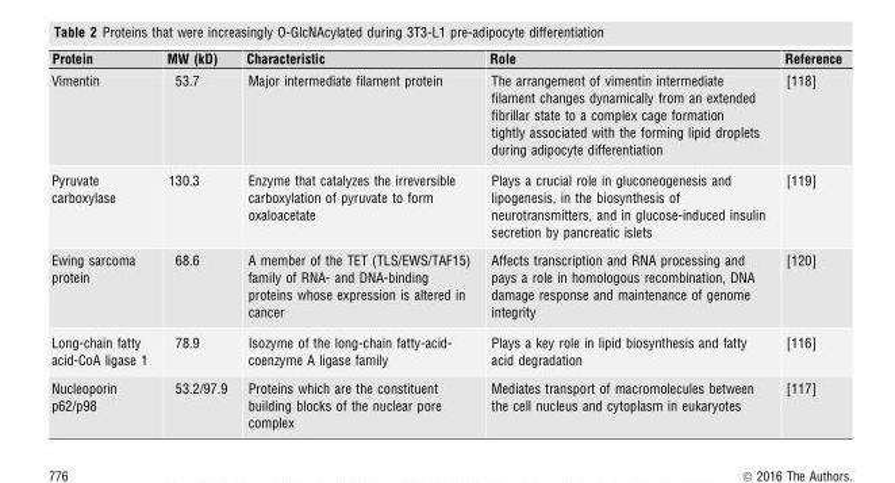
<table><thead><tr><td>Protein</td><td>MW (kD)</td><td>Characteristic</td><td>Role</td><td>Reference</td></tr></thead><tbody><tr><td>Vimentin</td><td>53.7</td><td>Major intermediate filament protein</td><td>The arrangement of vimentin intermediate filament changes dynamically from an extended fibrillar state to a complex cage formation tightly associated with the forming lipid droplets during adipocyte differentiation</td><td>[118]</td></tr><tr><td>Pyruvate carboxylase</td><td>130.3</td><td>Enzyme that catalyzes the irreversible carboxylation of pyruvate to form oxaloacetate</td><td>Plays a crucial role in gluconeogenesis and lipogenesis, in the biosynthesis of neurotransmitters, and in glucose-induced insulin secretion by pancreatic islets</td><td>[119]</td></tr><tr><td>Ewing sarcoma protein</td><td>68.6</td><td>A member of the TET (TLS/EWS/TAF15) family of RNA- and DNA-binding proteins whose expression is altered in cancer</td><td>Affects transcription and RNA processing and pays a role in homologous recombination, DNA damage response and maintenance of genome integrity</td><td>[120]</td></tr><tr><td>Long-chain fatty acid-CoA ligase 1</td><td>78.9</td><td>Isozyme of the long-chain fatty-acid- coenzyme A ligase family</td><td>Plays a key role in lipid biosynthesis and fatty acid degradation</td><td>[116]</td></tr><tr><td>Nucleoporin p62/p98</td><td>53.2/97.9</td><td>Proteins which are the constituent building blocks of the nuclear pore complex</td><td>Mediates transport of macromolecules between the cell nucleus and cytoplasm in eukaryotes</td><td>[117]</td></tr></tbody></table>